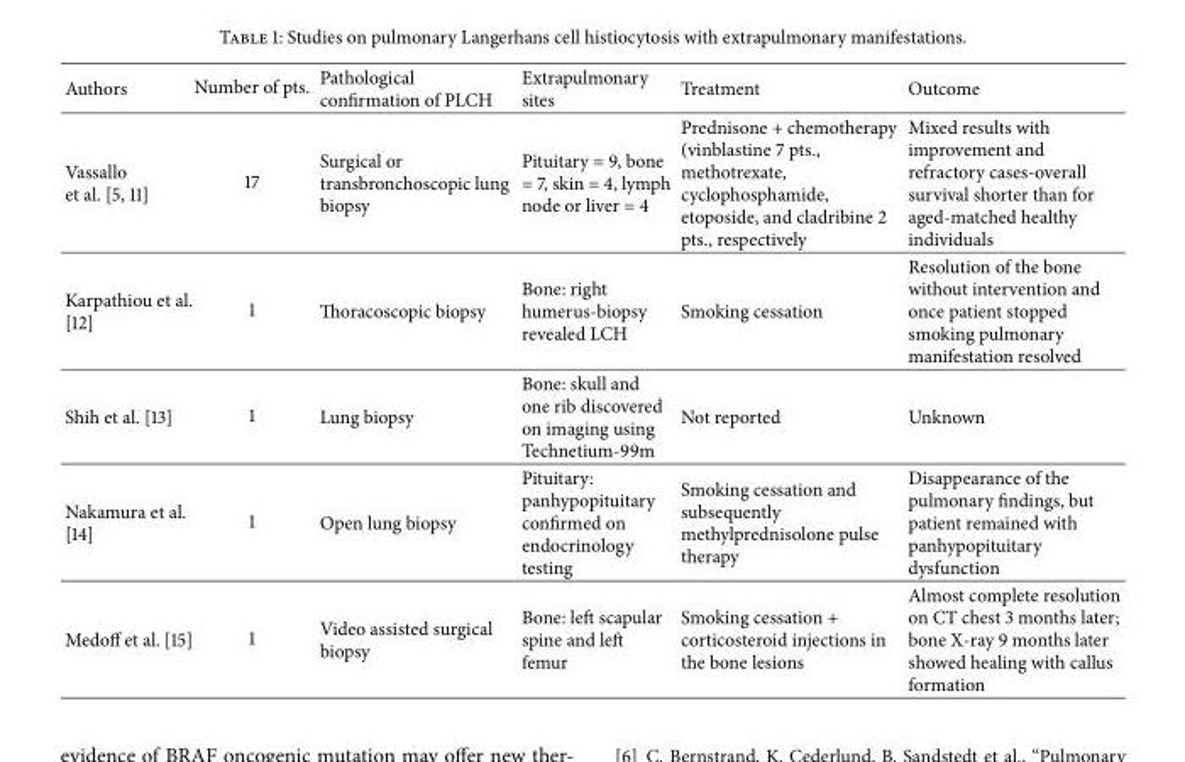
<table><thead><tr><td>Authors</td><td>Number of pts.</td><td>Pathological confirmation of PLCH</td><td>Extrapulmonary sites</td><td>Treatment</td><td>Outcome</td></tr></thead><tbody><tr><td>Vassallo et al. [5, 11]</td><td>17</td><td>Surgical or transbronchoscopic lung biopsy</td><td>Pituitary = 9, bone = 7, skin = 4, lymph node or liver = 4</td><td>Prednisone + chemotherapy (vinblastine 7 pts., methotrexate, cyclophosphamide, etoposide, and cladribine 2 pts., respectively</td><td>Mixed results with improvement and refractory cases-overall survival shorter than for aged-matched healthy individuals</td></tr><tr><td>Karpathiou et al. [12]</td><td>1</td><td>Thoracoscopic biopsy</td><td>Bone: right humerus-biopsy revealed LCH</td><td>Smoking cessation</td><td>Resolution of the bone without intervention and once patient stopped smoking pulmonary manifestation resolved</td></tr><tr><td>Shih et al. [13]</td><td>1</td><td>Lung biopsy</td><td>Bone: skull and one rib discovered on imaging using Technetium-99m</td><td>Not reported</td><td>Unknown</td></tr><tr><td>Nakamura et al. [14]</td><td>1</td><td>Open lung biopsy</td><td>Pituitary: panhypopituitary confirmed on endocrinology testing</td><td>Smoking cessation and subsequently methylprednisolone pulse therapy</td><td>Disappearance of the pulmonary findings, but patient remained with panhypopituitary dysfunction</td></tr><tr><td>Medoff et al. [15]</td><td>1</td><td>Video assisted surgical biopsy</td><td>Bone: left scapular spine and left femur</td><td>Smoking cessation + corticosteroid injections in the bone lesions</td><td>Almost complete resolution on CT chest 3 months later; bone X-ray 9 months later showed healing with callus formation</td></tr></tbody></table>